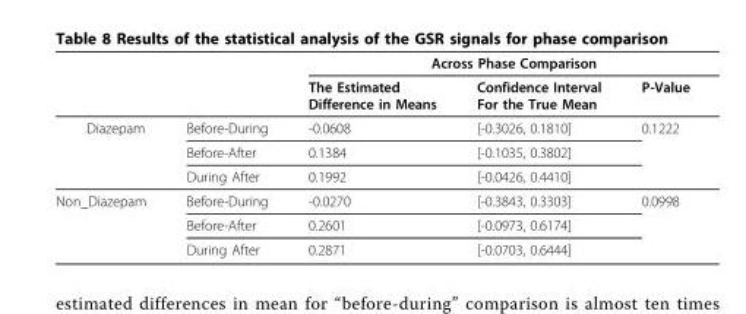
<table><thead><tr><td rowspan="2"></td><td rowspan="2"></td><td colspan="3">Across Phase Comparison</td></tr><tr><td>The Estimated Difference in Means</td><td>Confidence Interval For the True Mean</td><td>P-Value</td></tr></thead><tbody><tr><td rowspan="3">Diazepam</td><td>Before-During</td><td>-0.0608</td><td>[-0.3026, 0.1810]</td><td>0.1222</td></tr><tr><td>Before-After</td><td>0.1384</td><td>[-0.1035, 0.3802]</td><td></td></tr><tr><td>During After</td><td>0.1992</td><td>[-0.0426, 0.4410]</td><td></td></tr><tr><td rowspan="3">Non_Diazepam</td><td>Before-During</td><td>-0.0270</td><td>[-0.3843, 0.3303]</td><td>0.0998</td></tr><tr><td>Before-After</td><td>0.2601</td><td>[-0.0973, 0.6174]</td><td></td></tr><tr><td>During After</td><td>0.2871</td><td>[-0.0703, 0.6444]</td><td></td></tr></tbody></table>